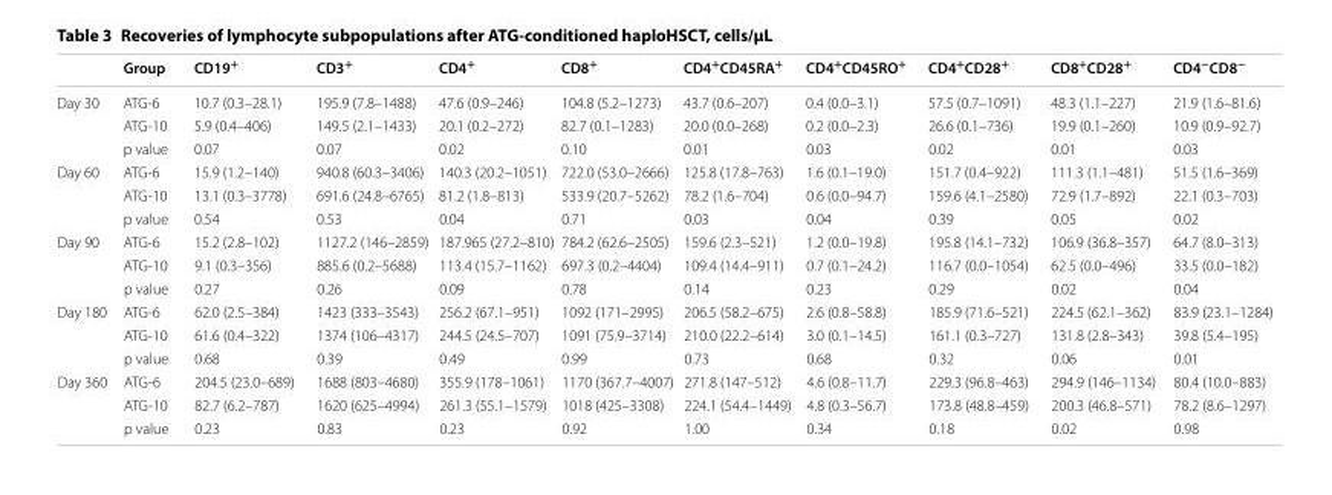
<table><thead><tr><td></td><td>Group</td><td>CD19<sup>+</sup></td><td>CD3<sup>+</sup></td><td>CD4<sup>+</sup></td><td>CD8<sup>+</sup></td><td>CD4<sup>+</sup>CD45RA<sup>+</sup></td><td>CD4<sup>+</sup>CD45RO<sup>+</sup></td><td>CD4<sup>+</sup>CD28<sup>+</sup></td><td>CD8<sup>+</sup>CD28<sup>+</sup></td><td>CD4<sup>−</sup>CD8<sup>−</sup></td></tr></thead><tbody><tr><td rowspan="3">Day 30</td><td>ATG‑6</td><td>10.7 (0.3–28.1)</td><td>195.9 (7.8–1488)</td><td>47.6 (0.9–246)</td><td>104.8 (5.2–1273)</td><td>43.7 (0.6–207)</td><td>0.4 (0.0–3.1)</td><td>57.5 (0.7–1091)</td><td>48.3 (1.1–227)</td><td>21.9 (1.6–81.6)</td></tr><tr><td>ATG‑10</td><td>5.9 (0.4–406)</td><td>149.5 (2.1–1433)</td><td>20.1 (0.2–272)</td><td>82.7 (0.1–1283)</td><td>20.0 (0.0–268)</td><td>0.2 (0.0–2.3)</td><td>26.6 (0.1–736)</td><td>19.9 (0.1–260)</td><td>10.9 (0.9–92.7)</td></tr><tr><td>p value</td><td>0.07</td><td>0.07</td><td>0.02</td><td>0.10</td><td>0.01</td><td>0.03</td><td>0.02</td><td>0.01</td><td>0.03</td></tr><tr><td rowspan="3">Day 60</td><td>ATG‑6</td><td>15.9 (1.2–140)</td><td>940.8 (60.3–3406)</td><td>140.3 (20.2–1051)</td><td>722.0 (53.0–2666)</td><td>125.8 (17.8–763)</td><td>1.6 (0.1–19.0)</td><td>151.7 (0.4–922)</td><td>111.3 (1.1–481)</td><td>51.5 (1.6–369)</td></tr><tr><td>ATG‑10</td><td>13.1 (0.3–3778)</td><td>691.6 (24.8–6765)</td><td>81.2 (1.8–813)</td><td>533.9 (20.7–5262)</td><td>78.2 (1.6–704)</td><td>0.6 (0.0–94.7)</td><td>159.6 (4.1–2580)</td><td>72.9 (1.7–892)</td><td>22.1 (0.3–703)</td></tr><tr><td>p value</td><td>0.54</td><td>0.53</td><td>0.04</td><td>0.71</td><td>0.03</td><td>0.04</td><td>0.39</td><td>0.05</td><td>0.02</td></tr><tr><td rowspan="3">Day 90</td><td>ATG‑6</td><td>15.2 (2.8–102)</td><td>1127.2 (146–2859)</td><td>187.965 (27.2–810)</td><td>784.2 (62.6–2505)</td><td>159.6 (2.3–521)</td><td>1.2 (0.0–19.8)</td><td>195.8 (14.1–732)</td><td>106.9 (36.8–357)</td><td>64.7 (8.0–313)</td></tr><tr><td>ATG‑10</td><td>9.1 (0.3–356)</td><td>885.6 (0.2–5688)</td><td>113.4 (15.7–1162)</td><td>697.3 (0.2–4404)</td><td>109.4 (14.4–911)</td><td>0.7 (0.1–24.2)</td><td>116.7 (0.0–1054)</td><td>62.5 (0.0–496)</td><td>33.5 (0.0–182)</td></tr><tr><td>p value</td><td>0.27</td><td>0.26</td><td>0.09</td><td>0.78</td><td>0.14</td><td>0.23</td><td>0.29</td><td>0.02</td><td>0.04</td></tr><tr><td rowspan="3">Day 180</td><td>ATG‑6</td><td>62.0 (2.5–384)</td><td>1423 (333–3543)</td><td>256.2 (67.1–951)</td><td>1092 (171–2995)</td><td>206.5 (58.2–675)</td><td>2.6 (0.8–58.8)</td><td>185.9 (71.6–521)</td><td>224.5 (62.1–362)</td><td>83.9 (23.1–1284)</td></tr><tr><td>ATG‑10</td><td>61.6 (0.4–322)</td><td>1374 (106–4317)</td><td>244.5 (24.5–707)</td><td>1091 (75.9–3714)</td><td>210.0 (22.2–614)</td><td>3.0 (0.1–14.5)</td><td>161.1 (0.3–727)</td><td>131.8 (2.8–343)</td><td>39.8 (5.4–195)</td></tr><tr><td>p value</td><td>0.68</td><td>0.39</td><td>0.49</td><td>0.99</td><td>0.73</td><td>0.68</td><td>0.32</td><td>0.06</td><td>0.01</td></tr><tr><td rowspan="3">Day 360</td><td>ATG‑6</td><td>204.5 (23.0–689)</td><td>1688 (803–4680)</td><td>355.9 (178–1061)</td><td>1170 (367.7–4007)</td><td>271.8 (147–512)</td><td>4.6 (0.8–11.7)</td><td>229.3 (96.8–463)</td><td>294.9 (146–1134)</td><td>80.4 (10.0–883)</td></tr><tr><td>ATG‑10</td><td>82.7 (6.2–787)</td><td>1620 (625–4994)</td><td>261.3 (55.1–1579)</td><td>1018 (425–3308)</td><td>224.1 (54.4–1449)</td><td>4.8 (0.3–56.7)</td><td>173.8 (48.8–459)</td><td>200.3 (46.8–571)</td><td>78.2 (8.6–1297)</td></tr><tr><td>p value</td><td>0.23</td><td>0.83</td><td>0.23</td><td>0.92</td><td>1.00</td><td>0.34</td><td>0.18</td><td>0.02</td><td>0.98</td></tr></tbody></table>